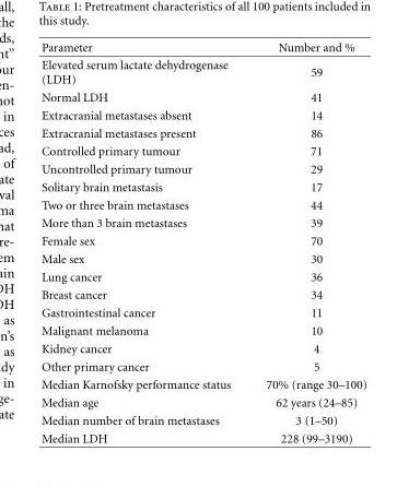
<table><thead><tr><td>Parameter</td><td>Number and %</td></tr></thead><tbody><tr><td>Elevated serum lactate dehydrogenase (LDH)</td><td>59</td></tr><tr><td>Normal LDH</td><td>41</td></tr><tr><td>Extracranial metastases absent</td><td>14</td></tr><tr><td>Extracranial metastases present</td><td>86</td></tr><tr><td>Controlled primary tumour</td><td>71</td></tr><tr><td>Uncontrolled primary tumour</td><td>29</td></tr><tr><td>Solitary brain metastasis</td><td>17</td></tr><tr><td>Two or three brain metastases</td><td>44</td></tr><tr><td>More than 3 brain metastases</td><td>39</td></tr><tr><td>Female sex</td><td>70</td></tr><tr><td>Male sex</td><td>30</td></tr><tr><td>Lung cancer</td><td>36</td></tr><tr><td>Breast cancer</td><td>34</td></tr><tr><td>Gastrointestinal cancer</td><td>11</td></tr><tr><td>Malignant melanoma</td><td>10</td></tr><tr><td>Kidney cancer</td><td>4</td></tr><tr><td>Other primary cancer</td><td>5</td></tr><tr><td>Median Karnofsky performance status</td><td>70% (range 30–100)</td></tr><tr><td>Median age</td><td>62 years (24–85)</td></tr><tr><td>Median number of brain metastases</td><td>3 (1–50)</td></tr><tr><td>Median LDH</td><td>228 (99–3190)</td></tr></tbody></table>